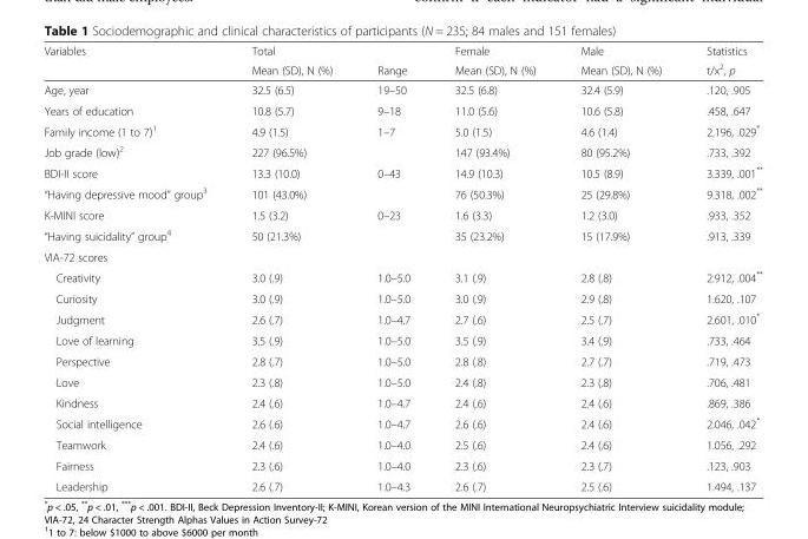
<table><thead><tr><td rowspan="2">Variables</td><td rowspan="2">Total Mean (SD), N (%)</td><td rowspan="2">Range</td><td rowspan="2">Female Mean (SD), N (%)</td><td rowspan="2">Male Mean (SD), N (%)</td><td rowspan="2">Statistics t/x<sup>2</sup>, p</td></tr><tr></tr></thead><tbody><tr><td>Age, year</td><td>32.5 (6.5)</td><td>19–50</td><td>32.5 (6.8)</td><td>32.4 (5.9)</td><td>.120, .905</td></tr><tr><td>Years of education</td><td>10.8 (5.7)</td><td>9–18</td><td>11.0 (5.6)</td><td>10.6 (5.8)</td><td>.458, .647</td></tr><tr><td>Family income (1 to 7)<sup>1</sup></td><td>4.9 (1.5)</td><td>1–7</td><td>5.0 (1.5)</td><td>4.6 (1.4)</td><td>2.196, .029*</td></tr><tr><td>Job grade (low)<sup>2</sup></td><td colspan="2">227 (96.5%)</td><td>147 (93.4%)</td><td>80 (95.2%)</td><td>.733, .392</td></tr><tr><td>BDI-II score</td><td>13.3 (10.0)</td><td>0–43</td><td>14.9 (10.3)</td><td>10.5 (8.9)</td><td>3.339, .001**</td></tr><tr><td>“Having depressive mood” group<sup>3</sup></td><td colspan="2">101 (43.0%)</td><td>76 (50.3%)</td><td>25 (29.8%)</td><td>9.318, .002**</td></tr><tr><td>K-MINI score</td><td>1.5 (3.2)</td><td>0–23</td><td>1.6 (3.3)</td><td>1.2 (3.0)</td><td>.933, .352</td></tr><tr><td>“Having suicidality” group<sup>4</sup></td><td colspan="2">50 (21.3%)</td><td>35 (23.2%)</td><td>15 (17.9%)</td><td>.913, .339</td></tr><tr><td colspan="6">VIA-72 scores</td></tr><tr><td>Creativity</td><td>3.0 (.9)</td><td>1.0–5.0</td><td>3.1 (.9)</td><td>2.8 (.8)</td><td>2.912, .004**</td></tr><tr><td>Curiosity</td><td>3.0 (.9)</td><td>1.0–5.0</td><td>3.0 (.9)</td><td>2.9 (.8)</td><td>1.620, .107</td></tr><tr><td>Judgment</td><td>2.6 (.7)</td><td>1.0–4.7</td><td>2.7 (.6)</td><td>2.5 (.7)</td><td>2.601, .010*</td></tr><tr><td>Love of learning</td><td>3.5 (.9)</td><td>1.0–5.0</td><td>3.5 (.9)</td><td>3.4 (.9)</td><td>.733, .464</td></tr><tr><td>Perspective</td><td>2.8 (.7)</td><td>1.0–5.0</td><td>2.8 (.8)</td><td>2.7 (.7)</td><td>.719, .473</td></tr><tr><td>Love</td><td>2.3 (.8)</td><td>1.0–5.0</td><td>2.4 (.8)</td><td>2.3 (.8)</td><td>.706, .481</td></tr><tr><td>Kindness</td><td>2.4 (.6)</td><td>1.0–4.7</td><td>2.4 (.6)</td><td>2.4 (.6)</td><td>.869, .386</td></tr><tr><td>Social intelligence</td><td>2.6 (.6)</td><td>1.0–4.7</td><td>2.6 (.6)</td><td>2.4 (.6)</td><td>2.046, .042*</td></tr><tr><td>Teamwork</td><td>2.4 (.6)</td><td>1.0–4.0</td><td>2.5 (.6)</td><td>2.4 (.6)</td><td>1.056, .292</td></tr><tr><td>Fairness</td><td>2.3 (.6)</td><td>1.0–4.0</td><td>2.3 (.6)</td><td>2.3 (.7)</td><td>.123, .903</td></tr><tr><td>Leadership</td><td>2.6 (.7)</td><td>1.0–4.3</td><td>2.6 (.7)</td><td>2.5 (.6)</td><td>1.494, .137</td></tr></tbody></table>